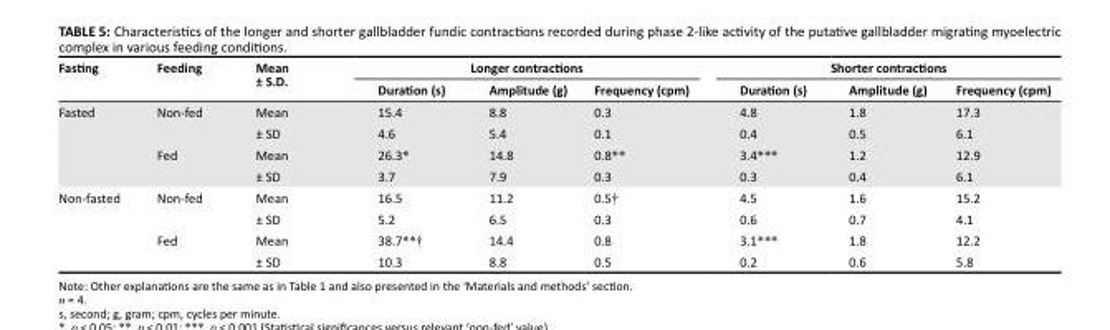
<table><thead><tr><td rowspan="2">Fasting</td><td rowspan="2">Feeding</td><td rowspan="2">Mean ± S.D.</td><td colspan="3">Longer contractions</td><td colspan="3">Shorter contractions</td></tr><tr><td>Duration (s)</td><td>Amplitude (g)</td><td>Frequency (cpm)</td><td>Duration (s)</td><td>Amplitude (g)</td><td>Frequency (cpm)</td></tr></thead><tbody><tr><td rowspan="4">Fasted</td><td rowspan="2">Non-fed</td><td>Mean</td><td>15.4</td><td>8.8</td><td>0.3</td><td>4.8</td><td>1.8</td><td>17.3</td></tr><tr><td>± SD</td><td>4.6</td><td>5.4</td><td>0.1</td><td>0.4</td><td>0.5</td><td>6.1</td></tr><tr><td rowspan="2">Fed</td><td>Mean</td><td>26.3*</td><td>14.8</td><td>0.8**</td><td>3.4***</td><td>1.2</td><td>12.9</td></tr><tr><td>± SD</td><td>3.7</td><td>7.9</td><td>0.3</td><td>0.3</td><td>0.4</td><td>6.1</td></tr><tr><td rowspan="4">Non-fasted</td><td rowspan="2">Non-fed</td><td>Mean</td><td>16.5</td><td>11.2</td><td>0.5†</td><td>4.5</td><td>1.6</td><td>15.2</td></tr><tr><td>± SD</td><td>5.2</td><td>6.5</td><td>0.3</td><td>0.6</td><td>0.7</td><td>4.1</td></tr><tr><td rowspan="2">Fed</td><td>Mean</td><td>38.7**†</td><td>14.4</td><td>0.8</td><td>3.1***</td><td>1.8</td><td>12.2</td></tr><tr><td>± SD</td><td>10.3</td><td>8.8</td><td>0.5</td><td>0.2</td><td>0.6</td><td>5.8</td></tr></tbody></table>